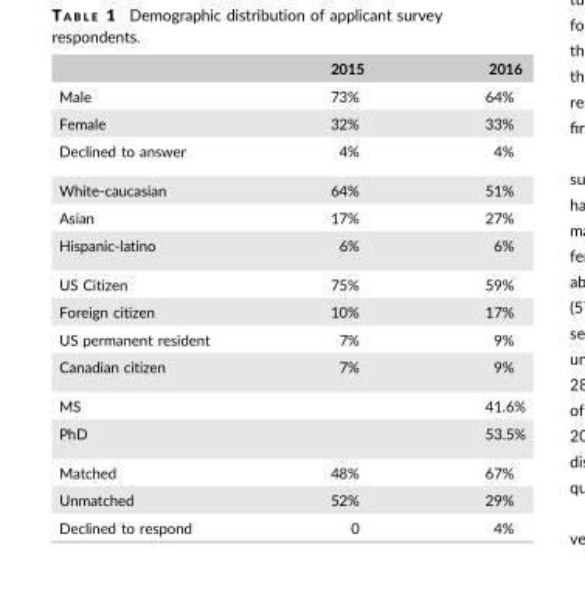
<table><thead><tr><td></td><td>2015</td><td>2016</td></tr></thead><tbody><tr><td>Male</td><td>73%</td><td>64%</td></tr><tr><td>Female</td><td>32%</td><td>33%</td></tr><tr><td>Declined to answer</td><td>4%</td><td>4%</td></tr><tr><td>White-caucasian</td><td>64%</td><td>51%</td></tr><tr><td>Asian</td><td>17%</td><td>27%</td></tr><tr><td>Hispanic-latino</td><td>6%</td><td>6%</td></tr><tr><td>US Citizen</td><td>75%</td><td>59%</td></tr><tr><td>Foreign citizen</td><td>10%</td><td>17%</td></tr><tr><td>US permanent resident</td><td>7%</td><td>9%</td></tr><tr><td>Canadian citizen</td><td>7%</td><td>9%</td></tr><tr><td>MS</td><td></td><td>41.6%</td></tr><tr><td>PhD</td><td></td><td>53.5%</td></tr><tr><td>Matched</td><td>48%</td><td>67%</td></tr><tr><td>Unmatched</td><td>52%</td><td>29%</td></tr><tr><td>Declined to respond</td><td>0</td><td>4%</td></tr></tbody></table>